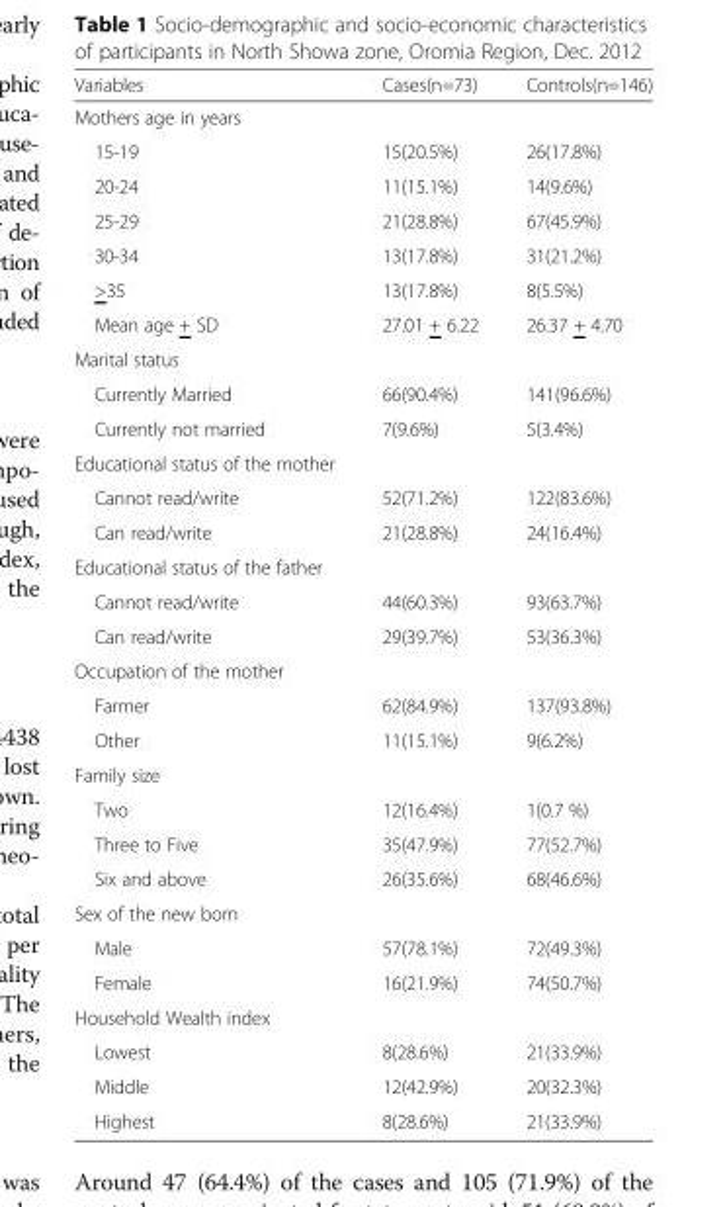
<table><thead><tr><td>Variables</td><td>Cases(n=73)</td><td>Controls(n=146)</td></tr></thead><tbody><tr><td colspan="3">Mothers age in years</td></tr><tr><td>15-19</td><td>15(20.5%)</td><td>26(17.8%)</td></tr><tr><td>20-24</td><td>11(15.1%)</td><td>14(9.6%)</td></tr><tr><td>25-29</td><td>21(28.8%)</td><td>67(45.9%)</td></tr><tr><td>30-34</td><td>13(17.8%)</td><td>31(21.2%)</td></tr><tr><td>&gt;35</td><td>13(17.8%)</td><td>8(5.5%)</td></tr><tr><td>Mean age + SD</td><td>27.01 + 6.22</td><td>26.37 + 4.70</td></tr><tr><td colspan="3">Marital status</td></tr><tr><td>Currently Married</td><td>66(90.4%)</td><td>141(96.6%)</td></tr><tr><td>Currently not married</td><td>7(9.6%)</td><td>5(3.4%)</td></tr><tr><td colspan="3">Educational status of the mother</td></tr><tr><td>Cannot read/write</td><td>52(71.2%)</td><td>122(83.6%)</td></tr><tr><td>Can read/write</td><td>21(28.8%)</td><td>24(16.4%)</td></tr><tr><td colspan="3">Educational status of the father</td></tr><tr><td>Cannot read/write</td><td>44(60.3%)</td><td>93(63.7%)</td></tr><tr><td>Can read/write</td><td>29(39.7%)</td><td>53(36.3%)</td></tr><tr><td colspan="3">Occupation of the mother</td></tr><tr><td>Farmer</td><td>62(84.9%)</td><td>137(93.8%)</td></tr><tr><td>Other</td><td>11(15.1%)</td><td>9(6.2%)</td></tr><tr><td colspan="3">Family size</td></tr><tr><td>Two</td><td>12(16.4%)</td><td>1(0.7 %)</td></tr><tr><td>Three to Five</td><td>35(47.9%)</td><td>77(52.7%)</td></tr><tr><td>Six and above</td><td>26(35.6%)</td><td>68(46.6%)</td></tr><tr><td colspan="3">Sex of the new born</td></tr><tr><td>Male</td><td>57(78.1%)</td><td>72(49.3%)</td></tr><tr><td>Female</td><td>16(21.9%)</td><td>74(50.7%)</td></tr><tr><td colspan="3">Household Wealth index</td></tr><tr><td>Lowest</td><td>8(28.6%)</td><td>21(33.9%)</td></tr><tr><td>Middle</td><td>12(42.9%)</td><td>20(32.3%)</td></tr><tr><td>Highest</td><td>8(28.6%)</td><td>21(33.9%)</td></tr></tbody></table>